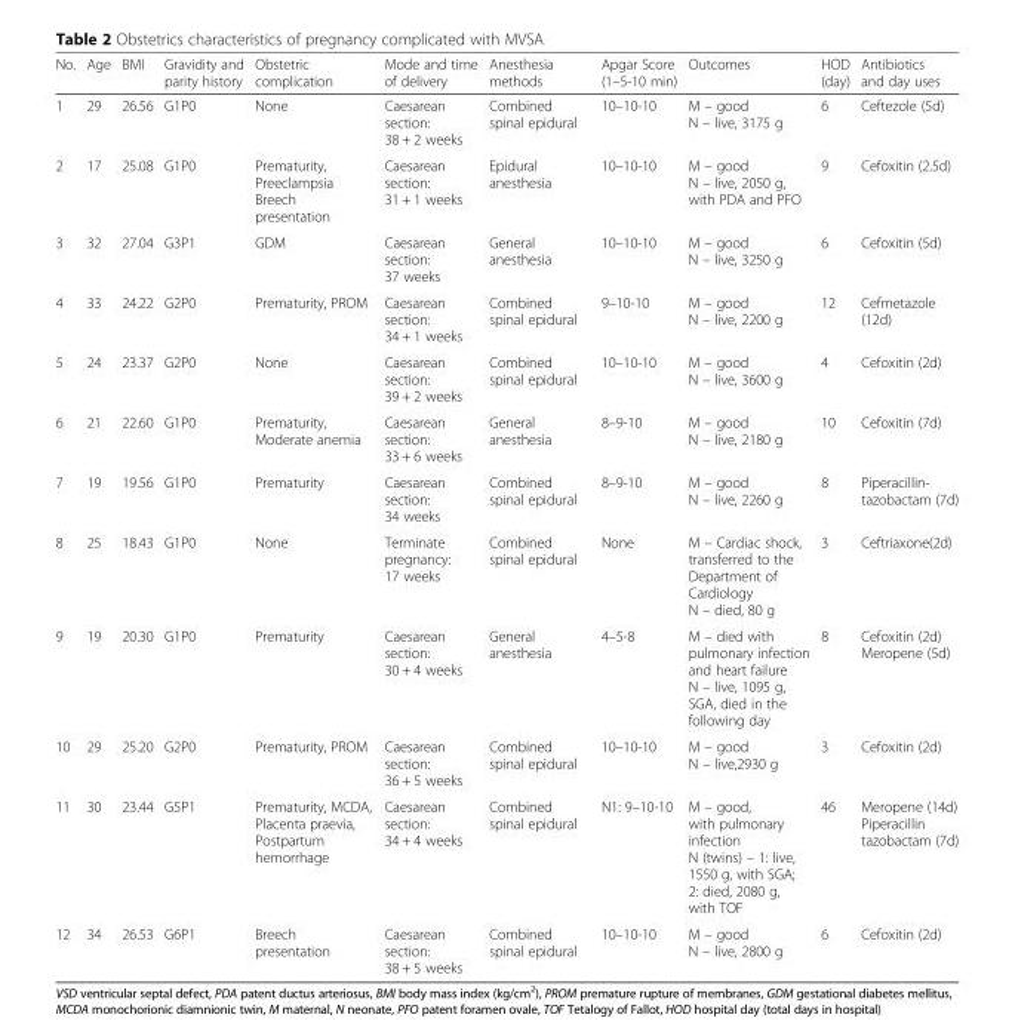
<table><thead><tr><td>No.</td><td>Age</td><td>BMI</td><td>Gravidity and parity history</td><td>Obstetric complication</td><td>Mode and time of delivery</td><td>Anesthesia methods</td><td>Apgar Score (1–5-10 min)</td><td>Outcomes</td><td>HOD (day)</td><td>Antibiotics and day uses</td></tr></thead><tbody><tr><td>1</td><td>29</td><td>26.56</td><td>G1P0</td><td>None</td><td>Caesarean section: 38 + 2 weeks</td><td>Combined spinal epidural</td><td>10–10-10</td><td>M – good N – live, 3175 g</td><td>6</td><td>Ceftezole (5d)</td></tr><tr><td>2</td><td>17</td><td>25.08</td><td>G1P0</td><td>Prematurity, Preeclampsia Breech presentation</td><td>Caesarean section: 31 + 1 weeks</td><td>Epidural anesthesia</td><td>10–10-10</td><td>M – good N – live, 2050 g, with PDA and PFO</td><td>9</td><td>Cefoxitin (2.5d)</td></tr><tr><td>3</td><td>32</td><td>27.04</td><td>G3P1</td><td>GDM</td><td>Caesarean section: 37 weeks</td><td>General anesthesia</td><td>10–10-10</td><td>M – good N – live, 3250 g</td><td>6</td><td>Cefoxitin (5d)</td></tr><tr><td>4</td><td>33</td><td>24.22</td><td>G2P0</td><td>Prematurity, PROM</td><td>Caesarean section: 34 + 1 weeks</td><td>Combined spinal epidural</td><td>9–10-10</td><td>M – good N – live, 2200 g</td><td>12</td><td>Cefmetazole (12d)</td></tr><tr><td>5</td><td>24</td><td>23.37</td><td>G2P0</td><td>None</td><td>Caesarean section: 39 + 2 weeks</td><td>Combined spinal epidural</td><td>10–10-10</td><td>M – good N – live, 3600 g</td><td>4</td><td>Cefoxitin (2d)</td></tr><tr><td>6</td><td>21</td><td>22.60</td><td>G1P0</td><td>Prematurity, Moderate anemia</td><td>Caesarean section: 33 + 6 weeks</td><td>General anesthesia</td><td>8–9-10</td><td>M – good N – live, 2180 g</td><td>10</td><td>Cefoxitin (7d)</td></tr><tr><td>7</td><td>19</td><td>19.56</td><td>G1P0</td><td>Prematurity</td><td>Caesarean section: 34 weeks</td><td>Combined spinal epidural</td><td>8–9-10</td><td>M – good N – live, 2260 g</td><td>8</td><td>Piperacillin- tazobactam (7d)</td></tr><tr><td>8</td><td>25</td><td>18.43</td><td>G1P0</td><td>None</td><td>Terminate pregnancy: 17 weeks</td><td>Combined spinal epidural</td><td>None</td><td>M – Cardiac shock, transferred to the Department of Cardiology N – died, 80 g</td><td>3</td><td>Ceftriaxone(2d)</td></tr><tr><td>9</td><td>19</td><td>20.30</td><td>G1P0</td><td>Prematurity</td><td>Caesarean section: 30 + 4 weeks</td><td>General anesthesia</td><td>4–5-8</td><td>M – died with pulmonary infection and heart failure N – live, 1095 g, SGA, died in the following day</td><td>8</td><td>Cefoxitin (2d) Meropene (5d)</td></tr><tr><td>10</td><td>29</td><td>25.20</td><td>G2P0</td><td>Prematurity, PROM</td><td>Caesarean section: 36 + 5 weeks</td><td>Combined spinal epidural</td><td>10–10-10</td><td>M – good N – live,2930 g</td><td>3</td><td>Cefoxitin (2d)</td></tr><tr><td>11</td><td>30</td><td>23.44</td><td>G5P1</td><td>Prematurity, MCDA, Placenta praevia, Postpartum hemorrhage</td><td>Caesarean section: 34 + 4 weeks</td><td>Combined spinal epidural</td><td>N1: 9–10-10</td><td>M – good, with pulmonary infection N (twins) – 1: live, 1550 g, with SGA; 2: died, 2080 g, with TOF</td><td>46</td><td>Meropene (14d) Piperacillin tazobactam (7d)</td></tr><tr><td>12</td><td>34</td><td>26.53</td><td>G6P1</td><td>Breech presentation</td><td>Caesarean section: 38 + 5 weeks</td><td>Combined spinal epidural</td><td>10–10-10</td><td>M – good N – live, 2800 g</td><td>6</td><td>Cefoxitin (2d)</td></tr></tbody></table>